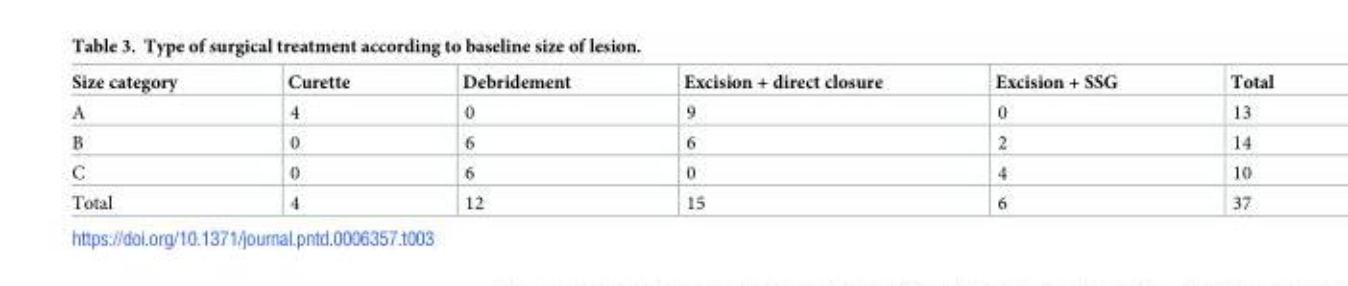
<table><thead><tr><td>Size category</td><td>Curette</td><td>Debridement</td><td>Excision + direct closure</td><td>Excision + SSG</td><td>Total</td></tr></thead><tbody><tr><td>A</td><td>4</td><td>0</td><td>9</td><td>0</td><td>13</td></tr><tr><td>B</td><td>0</td><td>6</td><td>6</td><td>2</td><td>14</td></tr><tr><td>C</td><td>0</td><td>6</td><td>0</td><td>4</td><td>10</td></tr><tr><td>Total</td><td>4</td><td>12</td><td>15</td><td>6</td><td>37</td></tr></tbody></table>